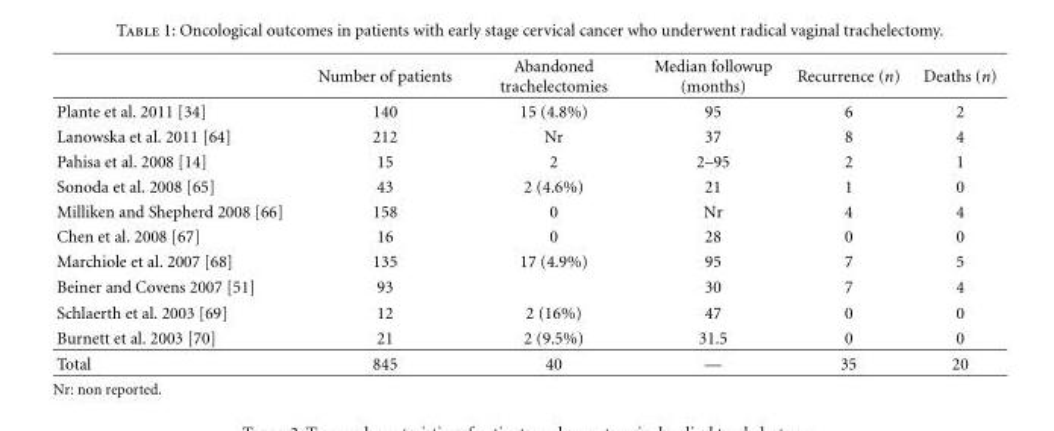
<table><thead><tr><td></td><td>Number of patients</td><td>Abandoned trachelectomies</td><td>Median followup (months)</td><td>Recurrence (n)</td><td>Deaths (n)</td></tr></thead><tbody><tr><td>Plante et al. 2011 [34]</td><td>140</td><td>15 (4.8%)</td><td>95</td><td>6</td><td>2</td></tr><tr><td>Lanowska et al. 2011 [64]</td><td>212</td><td>Nr</td><td>37</td><td>8</td><td>4</td></tr><tr><td>Pahisa et al. 2008 [14]</td><td>15</td><td>2</td><td>2–95</td><td>2</td><td>1</td></tr><tr><td>Sonoda et al. 2008 [65]</td><td>43</td><td>2 (4.6%)</td><td>21</td><td>1</td><td>0</td></tr><tr><td>Milliken and Shepherd 2008 [66]</td><td>158</td><td>0</td><td>Nr</td><td>4</td><td>4</td></tr><tr><td>Chen et al. 2008 [67]</td><td>16</td><td>0</td><td>28</td><td>0</td><td>0</td></tr><tr><td>Marchiole et al. 2007 [68]</td><td>135</td><td>17 (4.9%)</td><td>95</td><td>7</td><td>5</td></tr><tr><td>Beiner and Covens 2007 [51]</td><td>93</td><td></td><td>30</td><td>7</td><td>4</td></tr><tr><td>Schlaerth et al. 2003 [69]</td><td>12</td><td>2 (16%)</td><td>47</td><td>0</td><td>0</td></tr><tr><td>Burnett et al. 2003 [70]</td><td>21</td><td>2 (9.5%)</td><td>31.5</td><td>0</td><td>0</td></tr><tr><td>Total</td><td>845</td><td>40</td><td>—</td><td>35</td><td>20</td></tr></tbody></table>